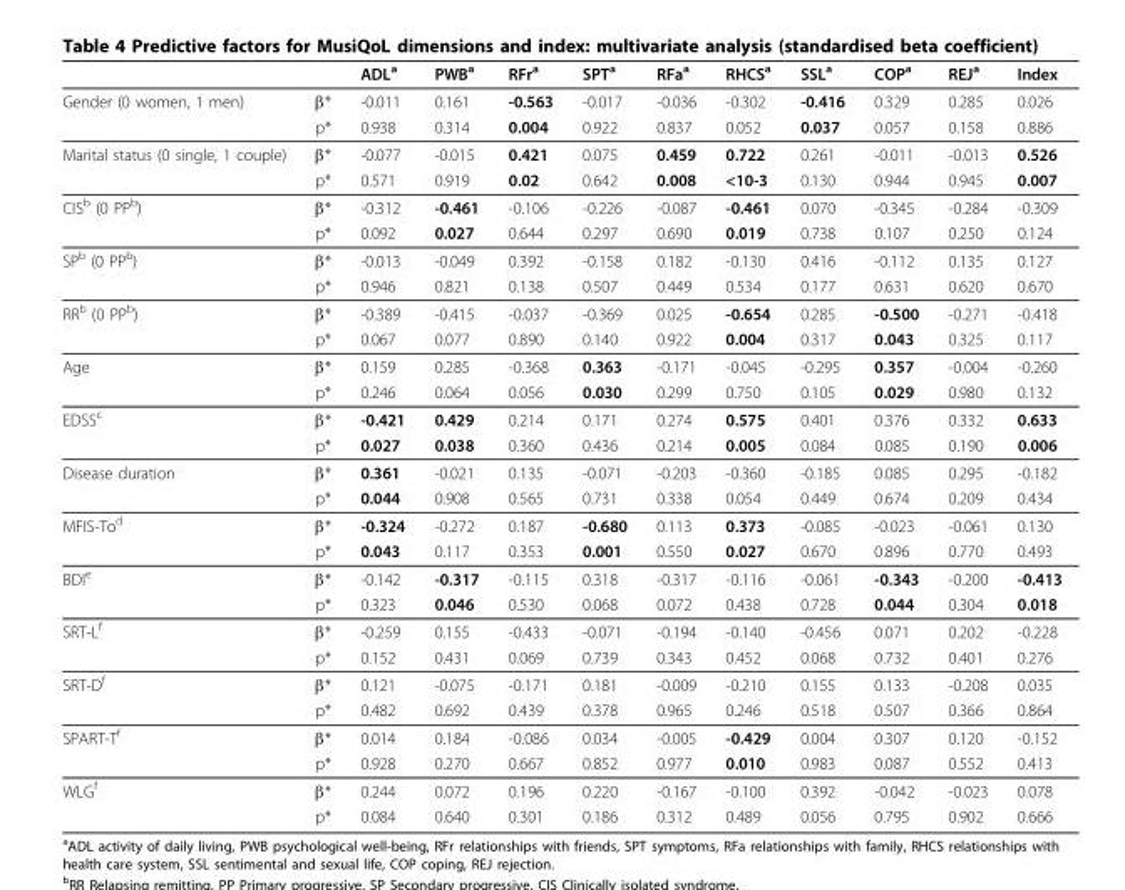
<table><thead><tr><td></td><td></td><td>ADL<sup>a</sup></td><td>PWB<sup>a</sup></td><td>RFr<sup>a</sup></td><td>SPT<sup>a</sup></td><td>RFa<sup>a</sup></td><td>RHCS<sup>a</sup></td><td>SSL<sup>a</sup></td><td>COP<sup>a</sup></td><td>REJ<sup>a</sup></td><td>Index</td></tr></thead><tbody><tr><td rowspan="2">Gender (0 women, 1 men)</td><td>β*</td><td>-0.011</td><td>0.161</td><td>-0.563</td><td>-0.017</td><td>-0.036</td><td>-0.302</td><td>-0.416</td><td>0.329</td><td>0.285</td><td>0.026</td></tr><tr><td>p*</td><td>0.938</td><td>0.314</td><td>0.004</td><td>0.922</td><td>0.837</td><td>0.052</td><td>0.037</td><td>0.057</td><td>0.158</td><td>0.886</td></tr><tr><td rowspan="2">Marital status (0 single, 1 couple)</td><td>β*</td><td>-0.077</td><td>-0.015</td><td>0.421</td><td>0.075</td><td>0.459</td><td>0.722</td><td>0.261</td><td>-0.011</td><td>-0.013</td><td>0.526</td></tr><tr><td>p*</td><td>0.571</td><td>0.919</td><td>0.02</td><td>0.642</td><td>0.008</td><td>&lt;10-3</td><td>0.130</td><td>0.944</td><td>0.945</td><td>0.007</td></tr><tr><td rowspan="2">CIS<sup>b</sup> (0 PP<sup>b</sup>)</td><td>β*</td><td>-0.312</td><td>-0.461</td><td>-0.106</td><td>-0.226</td><td>-0.087</td><td>-0.461</td><td>0.070</td><td>-0.345</td><td>-0.284</td><td>-0.309</td></tr><tr><td>p*</td><td>0.092</td><td>0.027</td><td>0.644</td><td>0.297</td><td>0.690</td><td>0.019</td><td>0.738</td><td>0.107</td><td>0.250</td><td>0.124</td></tr><tr><td rowspan="2">SP<sup>b</sup> (0 PP<sup>b</sup>)</td><td>β*</td><td>-0.013</td><td>-0.049</td><td>0.392</td><td>-0.158</td><td>0.182</td><td>-0.130</td><td>0.416</td><td>-0.112</td><td>0.135</td><td>0.127</td></tr><tr><td>p*</td><td>0.946</td><td>0.821</td><td>0.138</td><td>0.507</td><td>0.449</td><td>0.534</td><td>0.177</td><td>0.631</td><td>0.620</td><td>0.670</td></tr><tr><td rowspan="2">RR<sup>b</sup> (0 PP<sup>b</sup>)</td><td>β*</td><td>-0.389</td><td>-0.415</td><td>-0.037</td><td>-0.369</td><td>0.025</td><td>-0.654</td><td>0.285</td><td>-0.500</td><td>-0.271</td><td>-0.418</td></tr><tr><td>p*</td><td>0.067</td><td>0.077</td><td>0.890</td><td>0.140</td><td>0.922</td><td>0.004</td><td>0.317</td><td>0.043</td><td>0.325</td><td>0.117</td></tr><tr><td rowspan="2">Age</td><td>β*</td><td>0.159</td><td>0.285</td><td>-0.368</td><td>0.363</td><td>-0.171</td><td>-0.045</td><td>-0.295</td><td>0.357</td><td>-0.004</td><td>-0.260</td></tr><tr><td>p*</td><td>0.246</td><td>0.064</td><td>0.056</td><td>0.030</td><td>0.299</td><td>0.750</td><td>0.105</td><td>0.029</td><td>0.980</td><td>0.132</td></tr><tr><td rowspan="2">EDSS<sup>c</sup></td><td>β*</td><td>-0.421</td><td>0.429</td><td>0.214</td><td>0.171</td><td>0.274</td><td>0.575</td><td>0.401</td><td>0.376</td><td>0.332</td><td>0.633</td></tr><tr><td>p*</td><td>0.027</td><td>0.038</td><td>0.360</td><td>0.436</td><td>0.214</td><td>0.005</td><td>0.084</td><td>0.085</td><td>0.190</td><td>0.006</td></tr><tr><td rowspan="2">Disease duration</td><td>β*</td><td>0.361</td><td>-0.021</td><td>0.135</td><td>-0.071</td><td>-0.203</td><td>-0.360</td><td>-0.185</td><td>0.085</td><td>0.295</td><td>-0.182</td></tr><tr><td>p*</td><td>0.044</td><td>0.908</td><td>0.565</td><td>0.731</td><td>0.338</td><td>0.054</td><td>0.449</td><td>0.674</td><td>0.209</td><td>0.434</td></tr><tr><td rowspan="2">MFIS-To<sup>d</sup></td><td>β*</td><td>-0.324</td><td>-0.272</td><td>0.187</td><td>-0.680</td><td>0.113</td><td>0.373</td><td>-0.085</td><td>-0.023</td><td>-0.061</td><td>0.130</td></tr><tr><td>p*</td><td>0.043</td><td>0.117</td><td>0.353</td><td>0.001</td><td>0.550</td><td>0.027</td><td>0.670</td><td>0.896</td><td>0.770</td><td>0.493</td></tr><tr><td rowspan="2">BDI<sup>e</sup></td><td>β*</td><td>-0.142</td><td>-0.317</td><td>-0.115</td><td>0.318</td><td>-0.317</td><td>-0.116</td><td>-0.061</td><td>-0.343</td><td>-0.200</td><td>-0.413</td></tr><tr><td>p*</td><td>0.323</td><td>0.046</td><td>0.530</td><td>0.068</td><td>0.072</td><td>0.438</td><td>0.728</td><td>0.044</td><td>0.304</td><td>0.018</td></tr><tr><td rowspan="2">SRT-L<sup>f</sup></td><td>β*</td><td>-0.259</td><td>0.155</td><td>-0.433</td><td>-0.071</td><td>-0.194</td><td>-0.140</td><td>-0.456</td><td>0.071</td><td>0.202</td><td>-0.228</td></tr><tr><td>p*</td><td>0.152</td><td>0.431</td><td>0.069</td><td>0.739</td><td>0.343</td><td>0.452</td><td>0.068</td><td>0.732</td><td>0.401</td><td>0.276</td></tr><tr><td rowspan="2">SRT-D<sup>f</sup></td><td>β*</td><td>0.121</td><td>-0.075</td><td>-0.171</td><td>0.181</td><td>-0.009</td><td>-0.210</td><td>0.155</td><td>0.133</td><td>-0.208</td><td>0.035</td></tr><tr><td>p*</td><td>0.482</td><td>0.692</td><td>0.439</td><td>0.378</td><td>0.965</td><td>0.246</td><td>0.518</td><td>0.507</td><td>0.366</td><td>0.864</td></tr><tr><td rowspan="2">SPART-T<sup>f</sup></td><td>β*</td><td>0.014</td><td>0.184</td><td>-0.086</td><td>0.034</td><td>-0.005</td><td>-0.429</td><td>0.004</td><td>0.307</td><td>0.120</td><td>-0.152</td></tr><tr><td>p*</td><td>0.928</td><td>0.270</td><td>0.667</td><td>0.852</td><td>0.977</td><td>0.010</td><td>0.983</td><td>0.087</td><td>0.552</td><td>0.413</td></tr><tr><td rowspan="2">WLG<sup>f</sup></td><td>β*</td><td>0.244</td><td>0.072</td><td>0.196</td><td>0.220</td><td>-0.167</td><td>-0.100</td><td>0.392</td><td>-0.042</td><td>-0.023</td><td>0.078</td></tr><tr><td>p*</td><td>0.084</td><td>0.640</td><td>0.301</td><td>0.186</td><td>0.312</td><td>0.489</td><td>0.056</td><td>0.795</td><td>0.902</td><td>0.666</td></tr></tbody></table>